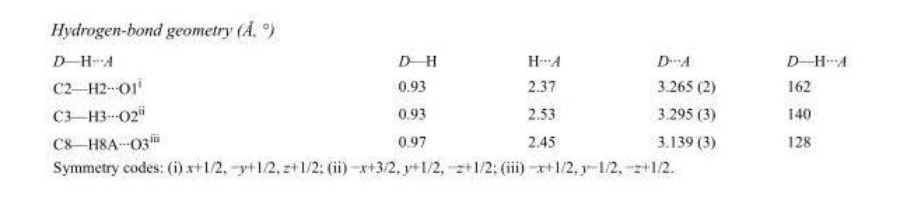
<table><tbody><tr><td>D—H···A</td><td>D—H</td><td>H···A</td><td>D···A</td><td>D—H···A</td></tr><tr><td>C2—H2···O1<sup>i</sup></td><td>0.93</td><td>2.37</td><td>3.265 (2)</td><td>162</td></tr><tr><td>C3—H3···O2<sup>ii</sup></td><td>0.93</td><td>2.53</td><td>3.295 (3)</td><td>140</td></tr><tr><td>C8—H8A···O3<sup>iii</sup></td><td>0.97</td><td>2.45</td><td>3.139 (3)</td><td>128</td></tr></tbody></table>